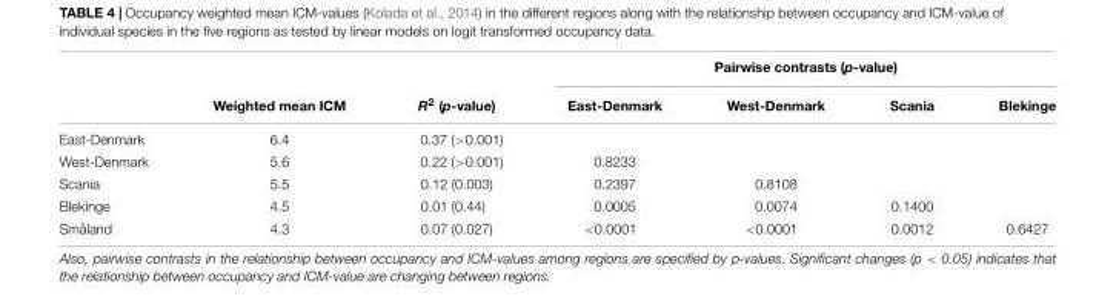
<table><thead><tr><td rowspan="2"></td><td rowspan="2">Weighted mean ICM</td><td rowspan="2">R<sup>2</sup> (p-value)</td><td colspan="4">Pairwise contrasts (p-value)</td></tr><tr><td>East-Denmark</td><td>West-Denmark</td><td>Scania</td><td>Blekinge</td></tr></thead><tbody><tr><td>East-Denmark</td><td>6.4</td><td>0.37 (&gt;0.001)</td><td></td><td></td><td></td><td></td></tr><tr><td>West-Denmark</td><td>5.6</td><td>0.22 (&gt;0.001)</td><td>0.8233</td><td></td><td></td><td></td></tr><tr><td>Scania</td><td>5.5</td><td>0.12 (0.003)</td><td>0.2397</td><td>0.8108</td><td></td><td></td></tr><tr><td>Blekinge</td><td>4.5</td><td>0.01 (0.44)</td><td>0.0005</td><td>0.0074</td><td>0.1400</td><td></td></tr><tr><td>Småland</td><td>4.3</td><td>0.07 (0.027)</td><td>&lt;0.0001</td><td>&lt;0.0001</td><td>0.0012</td><td>0.6427</td></tr></tbody></table>